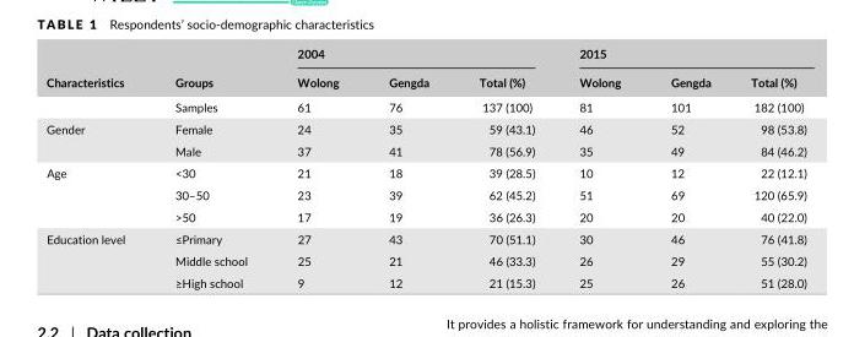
<table><thead><tr><td rowspan="2">Characteristics</td><td rowspan="2">Groups</td><td colspan="3">2004</td><td colspan="3">2015</td></tr><tr><td>Wolong</td><td>Gengda</td><td>Total (%)</td><td>Wolong</td><td>Gengda</td><td>Total (%)</td></tr></thead><tbody><tr><td></td><td>Samples</td><td>61</td><td>76</td><td>137 (100)</td><td>81</td><td>101</td><td>182 (100)</td></tr><tr><td rowspan="2">Gender</td><td>Female</td><td>24</td><td>35</td><td>59 (43.1)</td><td>46</td><td>52</td><td>98 (53.8)</td></tr><tr><td>Male</td><td>37</td><td>41</td><td>78 (56.9)</td><td>35</td><td>49</td><td>84 (46.2)</td></tr><tr><td rowspan="3">Age</td><td>&lt;30</td><td>21</td><td>18</td><td>39 (28.5)</td><td>10</td><td>12</td><td>22 (12.1)</td></tr><tr><td>30–50</td><td>23</td><td>39</td><td>62 (45.2)</td><td>51</td><td>69</td><td>120 (65.9)</td></tr><tr><td>&gt;50</td><td>17</td><td>19</td><td>36 (26.3)</td><td>20</td><td>20</td><td>40 (22.0)</td></tr><tr><td rowspan="3">Education level</td><td>≤Primary</td><td>27</td><td>43</td><td>70 (51.1)</td><td>30</td><td>46</td><td>76 (41.8)</td></tr><tr><td>Middle school</td><td>25</td><td>21</td><td>46 (33.3)</td><td>26</td><td>29</td><td>55 (30.2)</td></tr><tr><td>≥High school</td><td>9</td><td>12</td><td>21 (15.3)</td><td>25</td><td>26</td><td>51 (28.0)</td></tr></tbody></table>